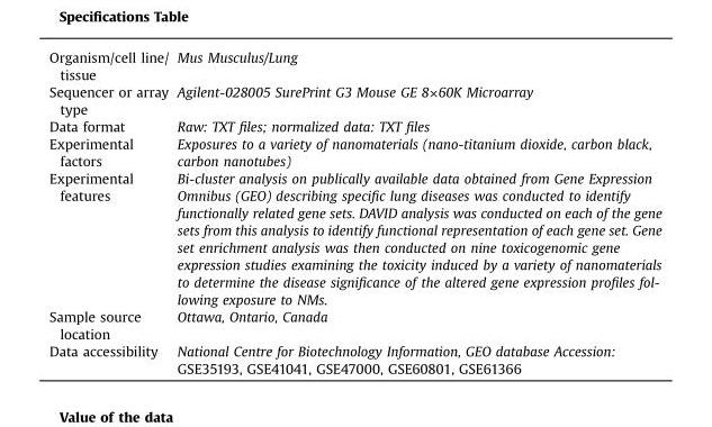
<table><tbody><tr><td>Organism/cell line/ tissue</td><td>Mus Musculus/Lung</td></tr><tr><td>Sequencer or array type</td><td>Agilent-028005 SurePrint G3 Mouse GE 8×60K Microarray</td></tr><tr><td>Data format</td><td>Raw: TXT files; normalized data: TXT files</td></tr><tr><td>Experimental factors</td><td>Exposures to a variety of nanomaterials (nano-titanium dioxide, carbon black, carbon nanotubes)</td></tr><tr><td>Experimental features</td><td>Bi-cluster analysis on publically available data obtained from Gene Expression Omnibus (GEO) describing specific lung diseases was conducted to identify functionally related gene sets. DAVID analysis was conducted on each of the gene sets from this analysis to identify functional representation of each gene set. Gene set enrichment analysis was then conducted on nine toxicogenomic gene expression studies examining the toxicity induced by a variety of nanomaterials to determine the disease significance of the altered gene expression profiles fol- lowing exposure to NMs.</td></tr><tr><td>Sample source location</td><td>Ottawa, Ontario, Canada</td></tr><tr><td>Data accessibility</td><td>National Centre for Biotechnology Information, GEO database Accession: GSE35193, GSE41041, GSE47000, GSE60801, GSE61366</td></tr></tbody></table>